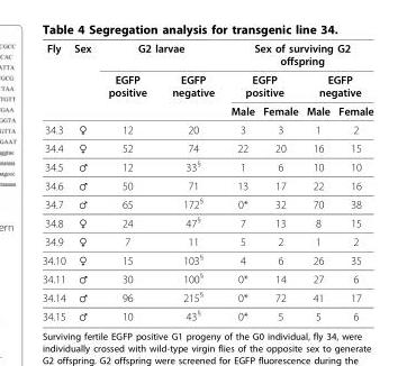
<table><thead><tr><td rowspan="3">Fly</td><td rowspan="3">Sex</td><td colspan="2">G2 larvae</td><td colspan="4">Sex of surviving G2 offspring</td></tr><tr><td rowspan="2">EGFP positive</td><td rowspan="2">EGFP negative</td><td colspan="2">EGFP positive</td><td colspan="2">EGFP negative</td></tr><tr><td>Male</td><td>Female</td><td>Male</td><td>Female</td></tr></thead><tbody><tr><td>34.3</td><td>♀</td><td>12</td><td>20</td><td>3</td><td>3</td><td>1</td><td>2</td></tr><tr><td>34.4</td><td>♀</td><td>52</td><td>74</td><td>22</td><td>20</td><td>16</td><td>15</td></tr><tr><td>34.5</td><td>♂</td><td>12</td><td>33<sup>§</sup></td><td>1</td><td>6</td><td>10</td><td>10</td></tr><tr><td>34.6</td><td>♂</td><td>50</td><td>71</td><td>13</td><td>17</td><td>22</td><td>16</td></tr><tr><td>34.7</td><td>♂</td><td>65</td><td>172<sup>§</sup></td><td>0*</td><td>32</td><td>70</td><td>38</td></tr><tr><td>34.8</td><td>♀</td><td>24</td><td>47<sup>§</sup></td><td>7</td><td>13</td><td>8</td><td>15</td></tr><tr><td>34.9</td><td>♀</td><td>7</td><td>11</td><td>5</td><td>2</td><td>1</td><td>2</td></tr><tr><td>34.10</td><td>♀</td><td>15</td><td>103<sup>§</sup></td><td>4</td><td>6</td><td>26</td><td>35</td></tr><tr><td>34.11</td><td>♂</td><td>30</td><td>100<sup>§</sup></td><td>0*</td><td>14</td><td>27</td><td>6</td></tr><tr><td>34.14</td><td>♂</td><td>96</td><td>215<sup>§</sup></td><td>0*</td><td>72</td><td>41</td><td>17</td></tr><tr><td>34.15</td><td>♂</td><td>10</td><td>43<sup>§</sup></td><td>0*</td><td>5</td><td>5</td><td>6</td></tr></tbody></table>